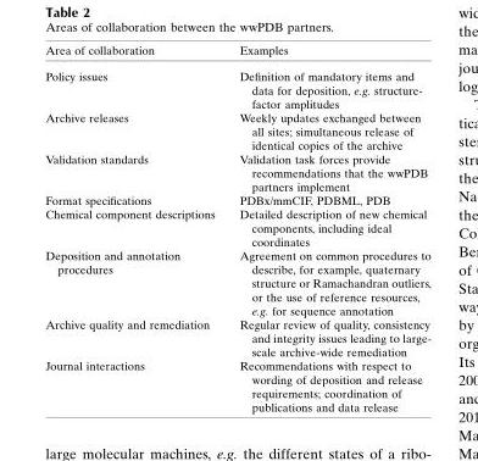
<table><thead><tr><td>Area of collaboration</td><td>Examples</td></tr></thead><tbody><tr><td>Policy issues</td><td>Definition of mandatory items and data for deposition, e.g. structure- factor amplitudes</td></tr><tr><td>Archive releases</td><td>Weekly updates exchanged between all sites; simultaneous release of identical copies of the archive</td></tr><tr><td>Validation standards</td><td>Validation task forces provide recommendations that the wwPDB partners implement</td></tr><tr><td>Format specifications</td><td>PDBx/mmCIF, PDBML, PDB</td></tr><tr><td>Chemical component descriptions</td><td>Detailed description of new chemical components, including ideal coordinates</td></tr><tr><td>Deposition and annotation procedures</td><td>Agreement on common procedures to describe, for example, quaternary structure or Ramachandran outliers, or the use of reference resources, e.g. for sequence annotation</td></tr><tr><td>Archive quality and remediation</td><td>Regular review of quality, consistency and integrity issues leading to large- scale archive-wide remediation</td></tr><tr><td>Journal interactions</td><td>Recommendations with respect to wording of deposition and release requirements; coordination of publications and data release</td></tr></tbody></table>